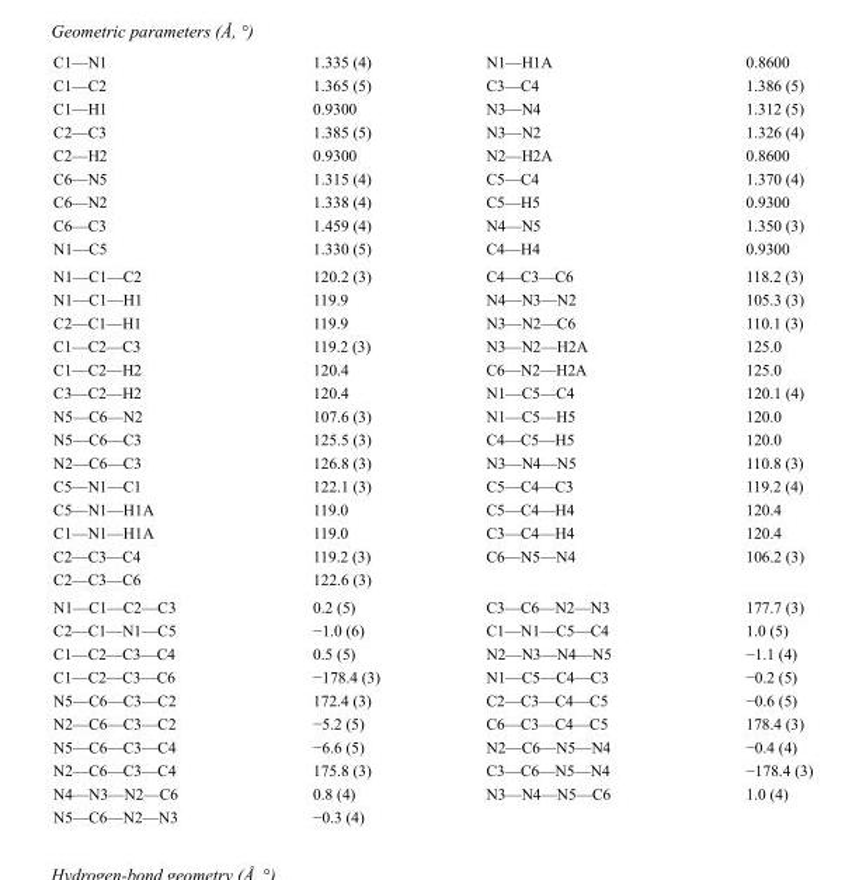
<table><tbody><tr><td>C1—N1</td><td>1.335 (4)</td><td>N1—H1A</td><td>0.8600</td></tr><tr><td>C1—C2</td><td>1.365 (5)</td><td>C3—C4</td><td>1.386 (5)</td></tr><tr><td>C1—H1</td><td>0.9300</td><td>N3—N4</td><td>1.312 (5)</td></tr><tr><td>C2—C3</td><td>1.385 (5)</td><td>N3—N2</td><td>1.326 (4)</td></tr><tr><td>C2—H2</td><td>0.9300</td><td>N2—H2A</td><td>0.8600</td></tr><tr><td>C6—N5</td><td>1.315 (4)</td><td>C5—C4</td><td>1.370 (4)</td></tr><tr><td>C6—N2</td><td>1.338 (4)</td><td>C5—H5</td><td>0.9300</td></tr><tr><td>C6—C3</td><td>1.459 (4)</td><td>N4—N5</td><td>1.350 (3)</td></tr><tr><td>N1—C5</td><td>1.330 (5)</td><td>C4—H4</td><td>0.9300</td></tr><tr><td>N1—C1—C2</td><td>120.2 (3)</td><td>C4—C3—C6</td><td>118.2 (3)</td></tr><tr><td>N1—C1—H1</td><td>119.9</td><td>N4—N3—N2</td><td>105.3 (3)</td></tr><tr><td>C2—C1—H1</td><td>119.9</td><td>N3—N2—C6</td><td>110.1 (3)</td></tr><tr><td>C1—C2—C3</td><td>119.2 (3)</td><td>N3—N2—H2A</td><td>125.0</td></tr><tr><td>C1—C2—H2</td><td>120.4</td><td>C6—N2—H2A</td><td>125.0</td></tr><tr><td>C3—C2—H2</td><td>120.4</td><td>N1—C5—C4</td><td>120.1 (4)</td></tr><tr><td>N5—C6—N2</td><td>107.6 (3)</td><td>N1—C5—H5</td><td>120.0</td></tr><tr><td>N5—C6—C3</td><td>125.5 (3)</td><td>C4—C5—H5</td><td>120.0</td></tr><tr><td>N2—C6—C3</td><td>126.8 (3)</td><td>N3—N4—N5</td><td>110.8 (3)</td></tr><tr><td>C5—N1—C1</td><td>122.1 (3)</td><td>C5—C4—C3</td><td>119.2 (4)</td></tr><tr><td>C5—N1—H1A</td><td>119.0</td><td>C5—C4—H4</td><td>120.4</td></tr><tr><td>C1—N1—H1A</td><td>119.0</td><td>C3—C4—H4</td><td>120.4</td></tr><tr><td>C2—C3—C4</td><td>119.2 (3)</td><td>C6—N5—N4</td><td>106.2 (3)</td></tr><tr><td>C2—C3—C6</td><td>122.6 (3)</td><td></td><td></td></tr><tr><td>N1—C1—C2—C3</td><td>0.2 (5)</td><td>C3—C6—N2—N3</td><td>177.7 (3)</td></tr><tr><td>C2—C1—N1—C5</td><td>−1.0 (6)</td><td>C1—N1—C5—C4</td><td>1.0 (5)</td></tr><tr><td>C1—C2—C3—C4</td><td>0.5 (5)</td><td>N2—N3—N4—N5</td><td>−1.1 (4)</td></tr><tr><td>C1—C2—C3—C6</td><td>−178.4 (3)</td><td>N1—C5—C4—C3</td><td>−0.2 (5)</td></tr><tr><td>N5—C6—C3—C2</td><td>172.4 (3)</td><td>C2—C3—C4—C5</td><td>−0.6 (5)</td></tr><tr><td>N2—C6—C3—C2</td><td>−5.2 (5)</td><td>C6—C3—C4—C5</td><td>178.4 (3)</td></tr><tr><td>N5—C6—C3—C4</td><td>−6.6 (5)</td><td>N2—C6—N5—N4</td><td>−0.4 (4)</td></tr><tr><td>N2—C6—C3—C4</td><td>175.8 (3)</td><td>C3—C6—N5—N4</td><td>−178.4 (3)</td></tr><tr><td>N4—N3—N2—C6</td><td>0.8 (4)</td><td>N3—N4—N5—C6</td><td>1.0 (4)</td></tr><tr><td>N5—C6—N2—N3</td><td>−0.3 (4)</td><td></td><td></td></tr></tbody></table>